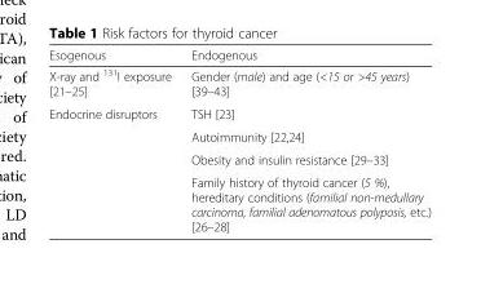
<table><thead><tr><td>Esogenous</td><td>Endogenous</td></tr></thead><tbody><tr><td>X-ray and <sup>131</sup>I exposure [21–25]</td><td>Gender (male) and age (&lt;15 or &gt;45 years) [39–43]</td></tr><tr><td rowspan="4">Endocrine disruptors</td><td>TSH [23]</td></tr><tr><td>Autoimmunity [22,24]</td></tr><tr><td>Obesity and insulin resistance [29–33]</td></tr><tr><td>Family history of thyroid cancer (5 %), hereditary conditions (familial non-medullary carcinoma, familial adenomatous polyposis, etc.) [26–28]</td></tr></tbody></table>